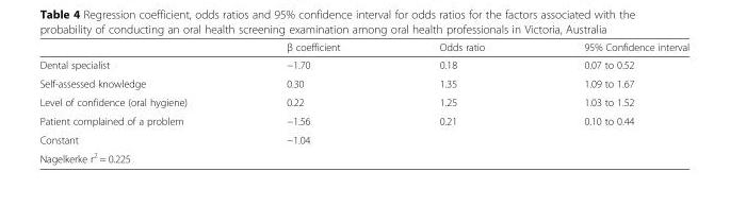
<table><thead><tr><td></td><td>β coefficient</td><td>Odds ratio</td><td>95% Confidence interval</td></tr></thead><tbody><tr><td>Dental specialist</td><td>−1.70</td><td>0.18</td><td>0.07 to 0.52</td></tr><tr><td>Self-assessed knowledge</td><td>0.30</td><td>1.35</td><td>1.09 to 1.67</td></tr><tr><td>Level of confidence (oral hygiene)</td><td>0.22</td><td>1.25</td><td>1.03 to 1.52</td></tr><tr><td>Patient complained of a problem</td><td>−1.56</td><td>0.21</td><td>0.10 to 0.44</td></tr><tr><td>Constant</td><td>−1.04</td><td></td><td></td></tr><tr><td>Nagelkerke r<sup>2</sup> = 0.225</td><td></td><td></td><td></td></tr></tbody></table>